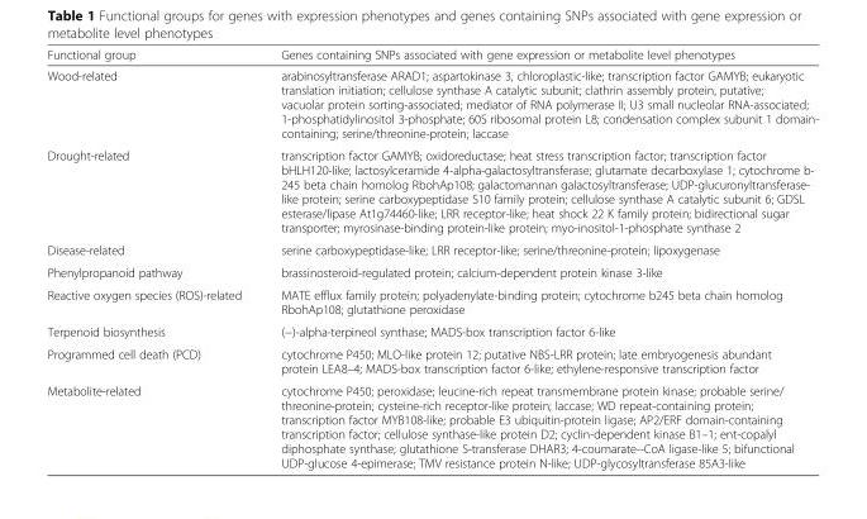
<table><thead><tr><td>Functional group</td><td>Genes containing SNPs associated with gene expression or metabolite level phenotypes</td></tr></thead><tbody><tr><td>Wood-related</td><td>arabinosyltransferase ARAD1; aspartokinase 3, chloroplastic-like; transcription factor GAMYB; eukaryotic translation initiation; cellulose synthase A catalytic subunit; clathrin assembly protein, putative; vacuolar protein sorting-associated; mediator of RNA polymerase II; U3 small nucleolar RNA-associated; 1-phosphatidylinositol 3-phosphate; 60S ribosomal protein L8; condensation complex subunit 1 domain- containing; serine/threonine-protein; laccase</td></tr><tr><td>Drought-related</td><td>transcription factor GAMYB; oxidoreductase; heat stress transcription factor; transcription factor bHLH120-like; lactosylceramide 4-alpha-galactosyltransferase; glutamate decarboxylase 1; cytochrome b- 245 beta chain homolog RbohAp108; galactomannan galactosyltransferase; UDP-glucuronyltransferase- like protein; serine carboxypeptidase S10 family protein; cellulose synthase A catalytic subunit 6; GDSL esterase/lipase At1g74460-like; LRR receptor-like; heat shock 22 K family protein; bidirectional sugar transporter; myrosinase-binding protein-like protein; myo-inositol-1-phosphate synthase 2</td></tr><tr><td>Disease-related</td><td>serine carboxypeptidase-like; LRR receptor-like; serine/threonine-protein; lipoxygenase</td></tr><tr><td>Phenylpropanoid pathway</td><td>brassinosteroid-regulated protein; calcium-dependent protein kinase 3-like</td></tr><tr><td>Reactive oxygen species (ROS)-related</td><td>MATE efflux family protein; polyadenylate-binding protein; cytochrome b245 beta chain homolog RbohAp108; glutathione peroxidase</td></tr><tr><td>Terpenoid biosynthesis</td><td>(−)-alpha-terpineol synthase; MADS-box transcription factor 6-like</td></tr><tr><td>Programmed cell death (PCD)</td><td>cytochrome P450; MLO-like protein 12; putative NBS-LRR protein; late embryogenesis abundant protein LEA8–4; MADS-box transcription factor 6-like; ethylene-responsive transcription factor</td></tr><tr><td>Metabolite-related</td><td>cytochrome P450; peroxidase; leucine-rich repeat transmembrane protein kinase; probable serine/ threonine-protein; cysteine-rich receptor-like protein; laccase; WD repeat-containing protein; transcription factor MYB108-like; probable E3 ubiquitin-protein ligase; AP2/ERF domain-containing transcription factor; cellulose synthase-like protein D2; cyclin-dependent kinase B1–1; ent-copalyl diphosphate synthase; glutathione S-transferase DHAR3; 4-coumarate--CoA ligase-like 5; bifunctional UDP-glucose 4-epimerase; TMV resistance protein N-like; UDP-glycosyltransferase 85A3-like</td></tr></tbody></table>